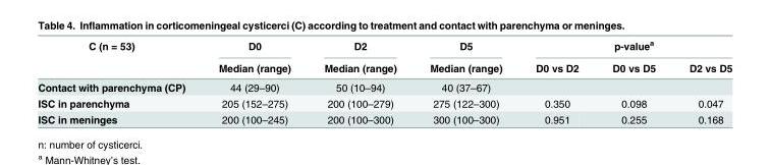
<table><thead><tr><td rowspan="2">C (n = 53)</td><td rowspan="2">D0 Median (range)</td><td rowspan="2">D2 Median (range)</td><td rowspan="2">D5 Median (range)</td><td colspan="3">p-value<sup>a</sup></td></tr><tr><td>D0 vs D2</td><td>D0 vs D5</td><td>D2 vs D5</td></tr></thead><tbody><tr><td>Contact with parenchyma (CP)</td><td>44 (29–90)</td><td>50 (10–94)</td><td>40 (37–67)</td><td colspan="3"></td></tr><tr><td>ISC in parenchyma</td><td>205 (152–275)</td><td>200 (100–279)</td><td>275 (122–300)</td><td>0.350</td><td>0.098</td><td>0.047</td></tr><tr><td>ISC in meninges</td><td>200 (100–245)</td><td>200 (100–300)</td><td>300 (100–300)</td><td>0.951</td><td>0.255</td><td>0.168</td></tr></tbody></table>